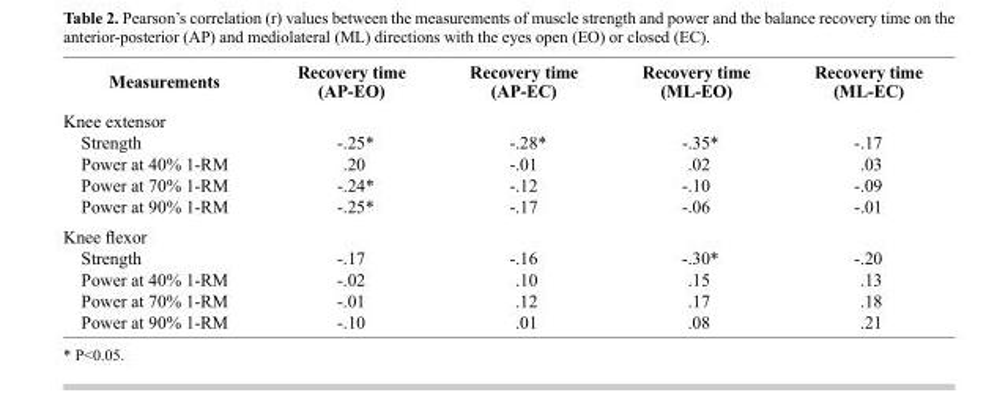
<table><thead><tr><td>Measurements</td><td>Recovery time (AP-EO)</td><td>Recovery time (AP-EC)</td><td>Recovery time (ML-EO)</td><td>Recovery time (ML-EC)</td></tr></thead><tbody><tr><td>Knee extensor Strength Power at 40% 1-RM Power at 70% 1-RM Power at 90% 1-RM</td><td>-.25* .20 -.24* -.25*</td><td>-.28* -.01 -.12 -.17</td><td>-.35* .02 -.10 -.06</td><td>-.17 .03 -.09 -.01</td></tr><tr><td>Knee flexor Strength Power at 40% 1-RM Power at 70% 1-RM Power at 90% 1-RM</td><td>-.17 -.02 -.01 -.10</td><td>-.16 .10 .12 .01</td><td>-.30* .15 .17 .08</td><td>-.20 .13 .18 .21</td></tr></tbody></table>